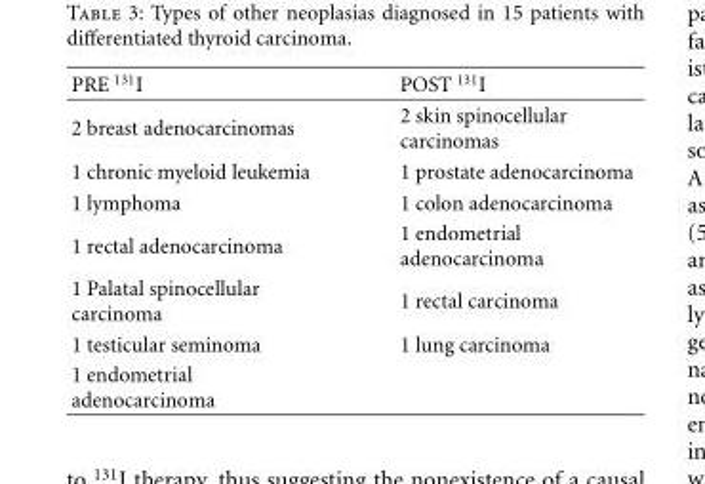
<table><thead><tr><td>PRE <sup>131</sup>I</td><td>POST <sup>131</sup>I</td></tr></thead><tbody><tr><td>2 breast adenocarcinomas</td><td>2 skin spinocellular carcinomas</td></tr><tr><td>1 chronic myeloid leukemia</td><td>1 prostate adenocarcinoma</td></tr><tr><td>1 lymphoma</td><td>1 colon adenocarcinoma</td></tr><tr><td>1 rectal adenocarcinoma</td><td>1 endometrial adenocarcinoma</td></tr><tr><td>1 Palatal spinocellular carcinoma</td><td>1 rectal carcinoma</td></tr><tr><td>1 testicular seminoma</td><td>1 lung carcinoma</td></tr><tr><td>1 endometrial adenocarcinoma</td><td></td></tr></tbody></table>